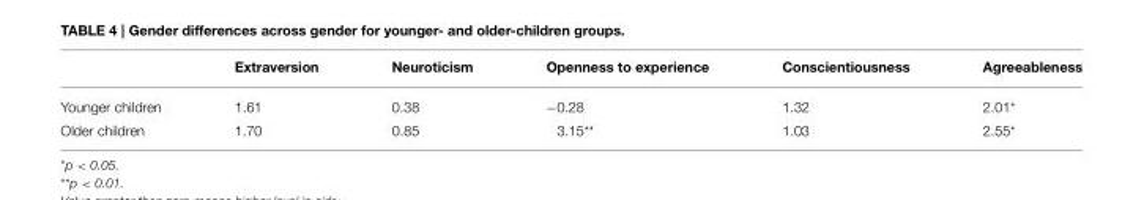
<table><thead><tr><td></td><td>Extraversion</td><td>Neuroticism</td><td>Openness to experience</td><td>Conscientiousness</td><td>Agreeableness</td></tr></thead><tbody><tr><td>Younger children</td><td>1.61</td><td>0.38</td><td>−0.28</td><td>1.32</td><td>2.01*</td></tr><tr><td>Older children</td><td>1.70</td><td>0.85</td><td>3.15**</td><td>1.03</td><td>2.55*</td></tr></tbody></table>